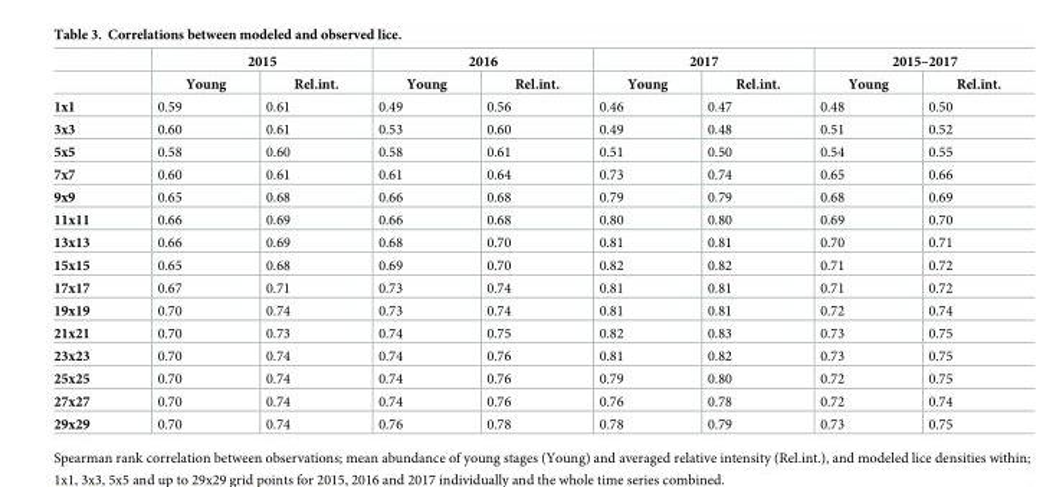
<table><thead><tr><td rowspan="2"></td><td colspan="2">2015</td><td colspan="2">2016</td><td colspan="2">2017</td><td colspan="2">2015–2017</td></tr><tr><td>Young</td><td>Rel.int.</td><td>Young</td><td>Rel.int.</td><td>Young</td><td>Rel.int.</td><td>Young</td><td>Rel.int.</td></tr></thead><tbody><tr><td>1x1</td><td>0.59</td><td>0.61</td><td>0.49</td><td>0.56</td><td>0.46</td><td>0.47</td><td>0.48</td><td>0.50</td></tr><tr><td>3x3</td><td>0.60</td><td>0.61</td><td>0.53</td><td>0.60</td><td>0.49</td><td>0.48</td><td>0.51</td><td>0.52</td></tr><tr><td>5x5</td><td>0.58</td><td>0.60</td><td>0.58</td><td>0.61</td><td>0.51</td><td>0.50</td><td>0.54</td><td>0.55</td></tr><tr><td>7x7</td><td>0.60</td><td>0.61</td><td>0.61</td><td>0.64</td><td>0.73</td><td>0.74</td><td>0.65</td><td>0.66</td></tr><tr><td>9x9</td><td>0.65</td><td>0.68</td><td>0.66</td><td>0.68</td><td>0.79</td><td>0.79</td><td>0.68</td><td>0.69</td></tr><tr><td>11x11</td><td>0.66</td><td>0.69</td><td>0.66</td><td>0.68</td><td>0.80</td><td>0.80</td><td>0.69</td><td>0.70</td></tr><tr><td>13x13</td><td>0.66</td><td>0.69</td><td>0.68</td><td>0.70</td><td>0.81</td><td>0.81</td><td>0.70</td><td>0.71</td></tr><tr><td>15x15</td><td>0.65</td><td>0.68</td><td>0.69</td><td>0.70</td><td>0.82</td><td>0.82</td><td>0.71</td><td>0.72</td></tr><tr><td>17x17</td><td>0.67</td><td>0.71</td><td>0.73</td><td>0.74</td><td>0.81</td><td>0.81</td><td>0.71</td><td>0.72</td></tr><tr><td>19x19</td><td>0.70</td><td>0.74</td><td>0.73</td><td>0.74</td><td>0.81</td><td>0.81</td><td>0.72</td><td>0.74</td></tr><tr><td>21x21</td><td>0.70</td><td>0.73</td><td>0.74</td><td>0.75</td><td>0.82</td><td>0.83</td><td>0.73</td><td>0.75</td></tr><tr><td>23x23</td><td>0.70</td><td>0.74</td><td>0.74</td><td>0.76</td><td>0.81</td><td>0.82</td><td>0.73</td><td>0.75</td></tr><tr><td>25x25</td><td>0.70</td><td>0.74</td><td>0.74</td><td>0.76</td><td>0.79</td><td>0.80</td><td>0.72</td><td>0.75</td></tr><tr><td>27x27</td><td>0.70</td><td>0.74</td><td>0.74</td><td>0.76</td><td>0.76</td><td>0.78</td><td>0.72</td><td>0.74</td></tr><tr><td>29x29</td><td>0.70</td><td>0.74</td><td>0.76</td><td>0.78</td><td>0.78</td><td>0.79</td><td>0.73</td><td>0.75</td></tr></tbody></table>